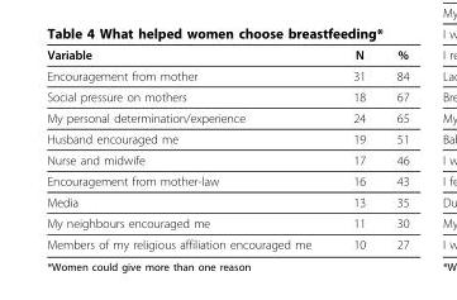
<table><thead><tr><td>Variable</td><td>N</td><td>%</td></tr></thead><tbody><tr><td>Encouragement from mother</td><td>31</td><td>84</td></tr><tr><td>Social pressure on mothers</td><td>18</td><td>67</td></tr><tr><td>My personal determination/experience</td><td>24</td><td>65</td></tr><tr><td>Husband encouraged me</td><td>19</td><td>51</td></tr><tr><td>Nurse and midwife</td><td>17</td><td>46</td></tr><tr><td>Encouragement from mother-law</td><td>16</td><td>43</td></tr><tr><td>Media</td><td>13</td><td>35</td></tr><tr><td>My neighbours encouraged me</td><td>11</td><td>30</td></tr><tr><td>Members of my religious affiliation encouraged me</td><td>10</td><td>27</td></tr></tbody></table>